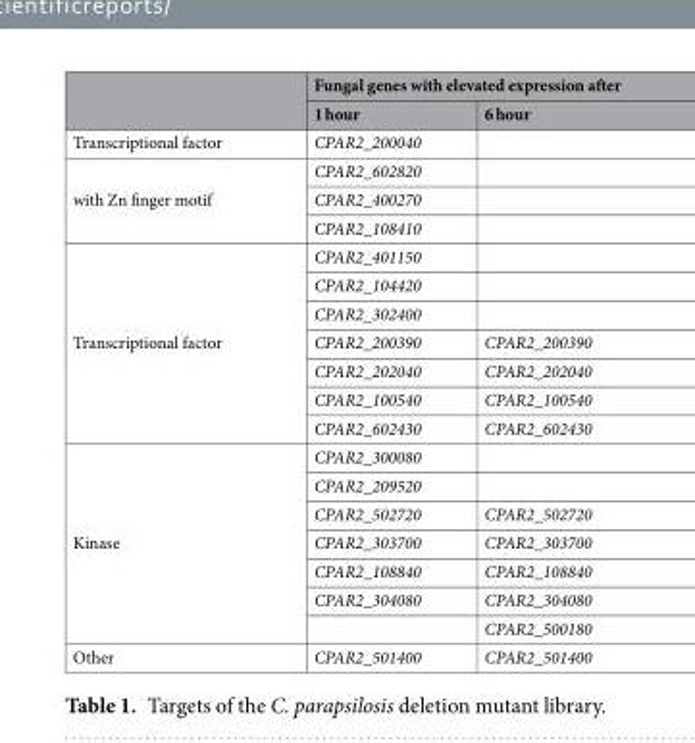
<table><thead><tr><td rowspan="2"></td><td colspan="2">Fungal genes with elevated expression after</td></tr><tr><td>1 hour</td><td>6 hour</td></tr></thead><tbody><tr><td>Transcriptional factor</td><td>CPAR2_200040</td><td></td></tr><tr><td rowspan="3">with Zn finger motif</td><td>CPAR2_602820</td><td></td></tr><tr><td>CPAR2_400270</td><td></td></tr><tr><td>CPAR2_108410</td><td></td></tr><tr><td rowspan="7">Transcriptional factor</td><td>CPAR2_401150</td><td></td></tr><tr><td>CPAR2_104420</td><td></td></tr><tr><td>CPAR2_302400</td><td></td></tr><tr><td>CPAR2_200390</td><td>CPAR2_200390</td></tr><tr><td>CPAR2_202040</td><td>CPAR2_202040</td></tr><tr><td>CPAR2_100540</td><td>CPAR2_100540</td></tr><tr><td>CPAR2_602430</td><td>CPAR2_602430</td></tr><tr><td rowspan="7">Kinase</td><td>CPAR2_300080</td><td></td></tr><tr><td>CPAR2_209520</td><td></td></tr><tr><td>CPAR2_502720</td><td>CPAR2_502720</td></tr><tr><td>CPAR2_303700</td><td>CPAR2_303700</td></tr><tr><td>CPAR2_108840</td><td>CPAR2_108840</td></tr><tr><td>CPAR2_304080</td><td>CPAR2_304080</td></tr><tr><td></td><td>CPAR2_500180</td></tr><tr><td>Other</td><td>CPAR2_501400</td><td>CPAR2_501400</td></tr></tbody></table>